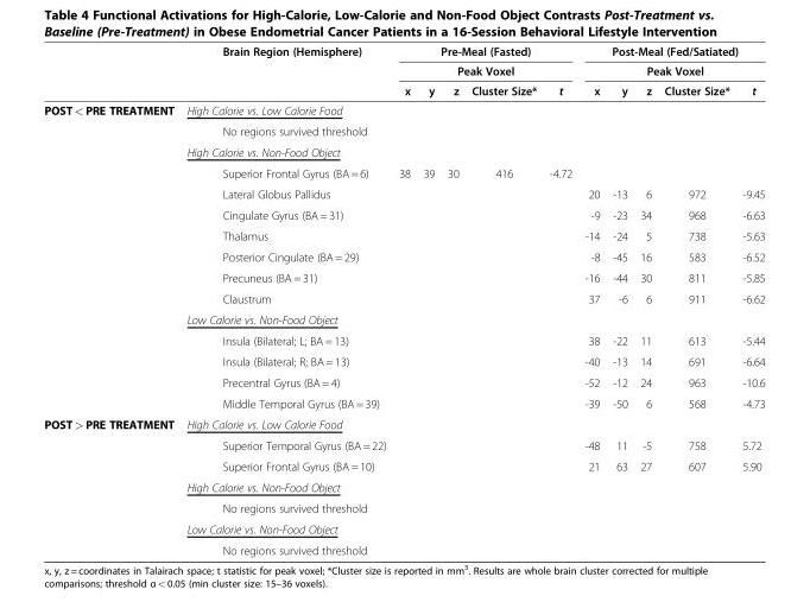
<table><thead><tr><td rowspan="3"></td><td rowspan="3">Brain Region (Hemisphere)</td><td rowspan="2" colspan="5">Pre-Meal (Fasted) Peak Voxel</td><td rowspan="2" colspan="5">Post-Meal (Fed/Satiated) Peak Voxel</td></tr><tr></tr><tr><td>x</td><td>y</td><td>z</td><td>Cluster Size*</td><td>t</td><td>x</td><td>y</td><td>z</td><td>Cluster Size*</td><td>t</td></tr></thead><tbody><tr><td rowspan="15">POST &lt; PRE TREATMENT</td><td colspan="11">High Calorie vs. Low Calorie Food</td></tr><tr><td>No regions survived threshold</td><td></td><td></td><td></td><td></td><td></td><td></td><td></td><td></td><td></td><td></td></tr><tr><td colspan="11">High Calorie vs. Non-Food Object</td></tr><tr><td>Superior Frontal Gyrus (BA = 6)</td><td>38</td><td>39</td><td>30</td><td>416</td><td>-4.72</td><td></td><td></td><td></td><td></td><td></td></tr><tr><td>Lateral Globus Pallidus</td><td></td><td></td><td></td><td></td><td></td><td>20</td><td>-13</td><td>6</td><td>972</td><td>-9.45</td></tr><tr><td>Cingulate Gyrus (BA = 31)</td><td></td><td></td><td></td><td></td><td></td><td>-9</td><td>-23</td><td>34</td><td>968</td><td>-6.63</td></tr><tr><td>Thalamus</td><td></td><td></td><td></td><td></td><td></td><td>-14</td><td>-24</td><td>5</td><td>738</td><td>-5.63</td></tr><tr><td>Posterior Cingulate (BA = 29)</td><td></td><td></td><td></td><td></td><td></td><td>-8</td><td>-45</td><td>16</td><td>583</td><td>-6.52</td></tr><tr><td>Precuneus (BA = 31)</td><td></td><td></td><td></td><td></td><td></td><td>-16</td><td>-44</td><td>30</td><td>811</td><td>-5.85</td></tr><tr><td>Claustrum</td><td></td><td></td><td></td><td></td><td></td><td>37</td><td>-6</td><td>6</td><td>911</td><td>-6.62</td></tr><tr><td colspan="11">Low Calorie vs. Non-Food Object</td></tr><tr><td>Insula (Bilateral; L; BA = 13)</td><td></td><td></td><td></td><td></td><td></td><td>38</td><td>-22</td><td>11</td><td>613</td><td>-5.44</td></tr><tr><td>Insula (Bilateral; R; BA = 13)</td><td></td><td></td><td></td><td></td><td></td><td>-40</td><td>-13</td><td>14</td><td>691</td><td>-6.64</td></tr><tr><td>Precentral Gyrus (BA = 4)</td><td></td><td></td><td></td><td></td><td></td><td>-52</td><td>-12</td><td>24</td><td>963</td><td>-10.6</td></tr><tr><td>Middle Temporal Gyrus (BA = 39)</td><td></td><td></td><td></td><td></td><td></td><td>-39</td><td>-50</td><td>6</td><td>568</td><td>-4.73</td></tr><tr><td rowspan="7">POST &gt; PRE TREATMENT</td><td colspan="11">High Calorie vs. Low Calorie Food</td></tr><tr><td>Superior Temporal Gyrus (BA = 22)</td><td></td><td></td><td></td><td></td><td></td><td>-48</td><td>11</td><td>-5</td><td>758</td><td>5.72</td></tr><tr><td>Superior Frontal Gyrus (BA = 10)</td><td></td><td></td><td></td><td></td><td></td><td>21</td><td>63</td><td>27</td><td>607</td><td>5.90</td></tr><tr><td colspan="11">High Calorie vs. Non-Food Object</td></tr><tr><td>No regions survived threshold</td><td></td><td></td><td></td><td></td><td></td><td></td><td></td><td></td><td></td><td></td></tr><tr><td>Low Calorie vs. Non-Food Object</td><td></td><td></td><td></td><td></td><td></td><td></td><td></td><td></td><td></td><td></td></tr><tr><td>No regions survived threshold</td><td></td><td></td><td></td><td></td><td></td><td></td><td></td><td></td><td></td><td></td></tr></tbody></table>